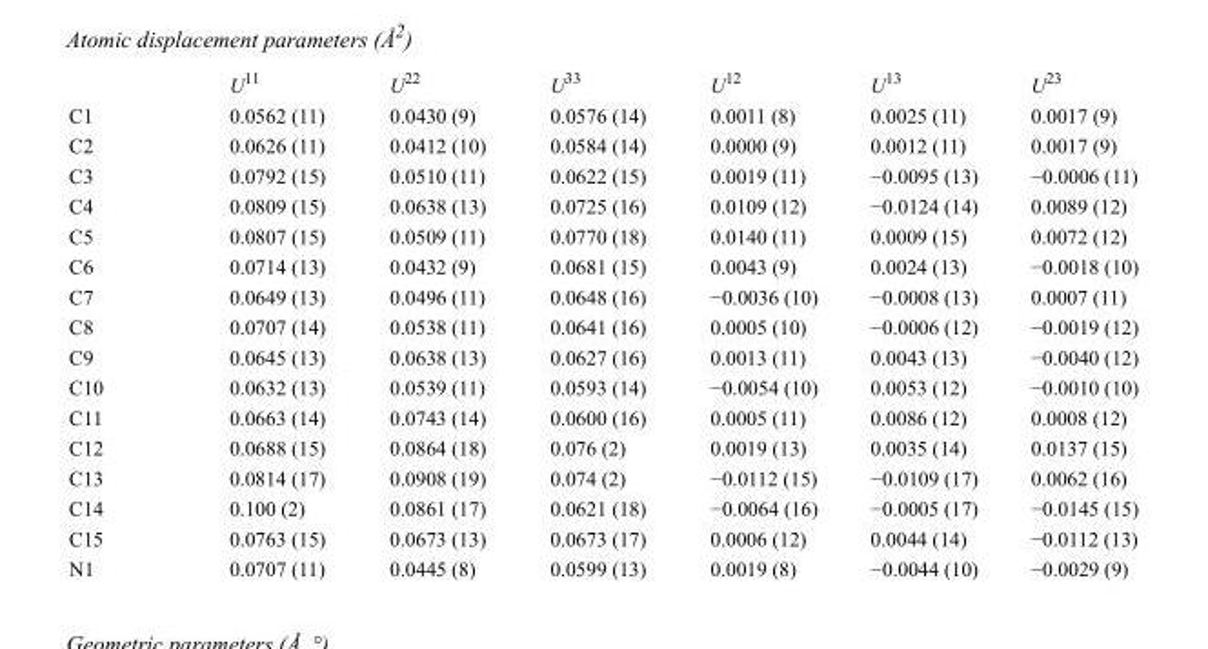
<table><thead><tr><td></td><td>U<sup>11</sup></td><td>U<sup>22</sup></td><td>U<sup>33</sup></td><td>U<sup>12</sup></td><td>U<sup>13</sup></td><td>U<sup>23</sup></td></tr></thead><tbody><tr><td>C1</td><td>0.0562 (11)</td><td>0.0430 (9)</td><td>0.0576 (14)</td><td>0.0011 (8)</td><td>0.0025 (11)</td><td>0.0017 (9)</td></tr><tr><td>C2</td><td>0.0626 (11)</td><td>0.0412 (10)</td><td>0.0584 (14)</td><td>0.0000 (9)</td><td>0.0012 (11)</td><td>0.0017 (9)</td></tr><tr><td>C3</td><td>0.0792 (15)</td><td>0.0510 (11)</td><td>0.0622 (15)</td><td>0.0019 (11)</td><td>−0.0095 (13)</td><td>−0.0006 (11)</td></tr><tr><td>C4</td><td>0.0809 (15)</td><td>0.0638 (13)</td><td>0.0725 (16)</td><td>0.0109 (12)</td><td>−0.0124 (14)</td><td>0.0089 (12)</td></tr><tr><td>C5</td><td>0.0807 (15)</td><td>0.0509 (11)</td><td>0.0770 (18)</td><td>0.0140 (11)</td><td>0.0009 (15)</td><td>0.0072 (12)</td></tr><tr><td>C6</td><td>0.0714 (13)</td><td>0.0432 (9)</td><td>0.0681 (15)</td><td>0.0043 (9)</td><td>0.0024 (13)</td><td>−0.0018 (10)</td></tr><tr><td>C7</td><td>0.0649 (13)</td><td>0.0496 (11)</td><td>0.0648 (16)</td><td>−0.0036 (10)</td><td>−0.0008 (13)</td><td>0.0007 (11)</td></tr><tr><td>C8</td><td>0.0707 (14)</td><td>0.0538 (11)</td><td>0.0641 (16)</td><td>0.0005 (10)</td><td>−0.0006 (12)</td><td>−0.0019 (12)</td></tr><tr><td>C9</td><td>0.0645 (13)</td><td>0.0638 (13)</td><td>0.0627 (16)</td><td>0.0013 (11)</td><td>0.0043 (13)</td><td>−0.0040 (12)</td></tr><tr><td>C10</td><td>0.0632 (13)</td><td>0.0539 (11)</td><td>0.0593 (14)</td><td>−0.0054 (10)</td><td>0.0053 (12)</td><td>−0.0010 (10)</td></tr><tr><td>C11</td><td>0.0663 (14)</td><td>0.0743 (14)</td><td>0.0600 (16)</td><td>0.0005 (11)</td><td>0.0086 (12)</td><td>0.0008 (12)</td></tr><tr><td>C12</td><td>0.0688 (15)</td><td>0.0864 (18)</td><td>0.076 (2)</td><td>0.0019 (13)</td><td>0.0035 (14)</td><td>0.0137 (15)</td></tr><tr><td>C13</td><td>0.0814 (17)</td><td>0.0908 (19)</td><td>0.074 (2)</td><td>−0.0112 (15)</td><td>−0.0109 (17)</td><td>0.0062 (16)</td></tr><tr><td>C14</td><td>0.100 (2)</td><td>0.0861 (17)</td><td>0.0621 (18)</td><td>−0.0064 (16)</td><td>−0.0005 (17)</td><td>−0.0145 (15)</td></tr><tr><td>C15</td><td>0.0763 (15)</td><td>0.0673 (13)</td><td>0.0673 (17)</td><td>0.0006 (12)</td><td>0.0044 (14)</td><td>−0.0112 (13)</td></tr><tr><td>N1</td><td>0.0707 (11)</td><td>0.0445 (8)</td><td>0.0599 (13)</td><td>0.0019 (8)</td><td>−0.0044 (10)</td><td>−0.0029 (9)</td></tr></tbody></table>